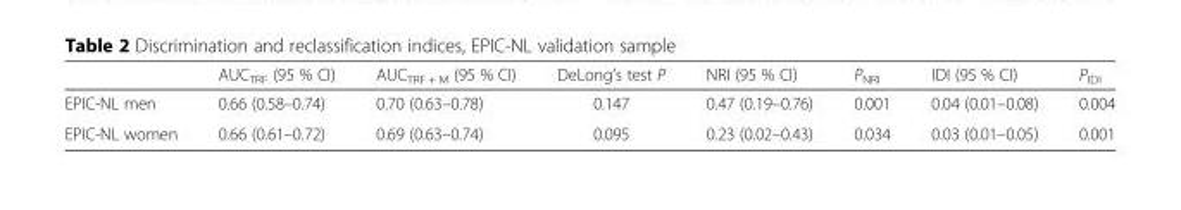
<table><thead><tr><td></td><td>AUC<sub>TRF</sub> (95 % CI)</td><td>AUC<sub>TRF + M</sub> (95 % CI)</td><td>DeLong’s test P</td><td>NRI (95 % CI)</td><td>P<sub>NRI</sub></td><td>IDI (95 % CI)</td><td>P<sub>IDI</sub></td></tr></thead><tbody><tr><td>EPIC-NL men</td><td>0.66 (0.58–0.74)</td><td>0.70 (0.63–0.78)</td><td>0.147</td><td>0.47 (0.19–0.76)</td><td>0.001</td><td>0.04 (0.01–0.08)</td><td>0.004</td></tr><tr><td>EPIC-NL women</td><td>0.66 (0.61–0.72)</td><td>0.69 (0.63–0.74)</td><td>0.095</td><td>0.23 (0.02–0.43)</td><td>0.034</td><td>0.03 (0.01–0.05)</td><td>0.001</td></tr></tbody></table>